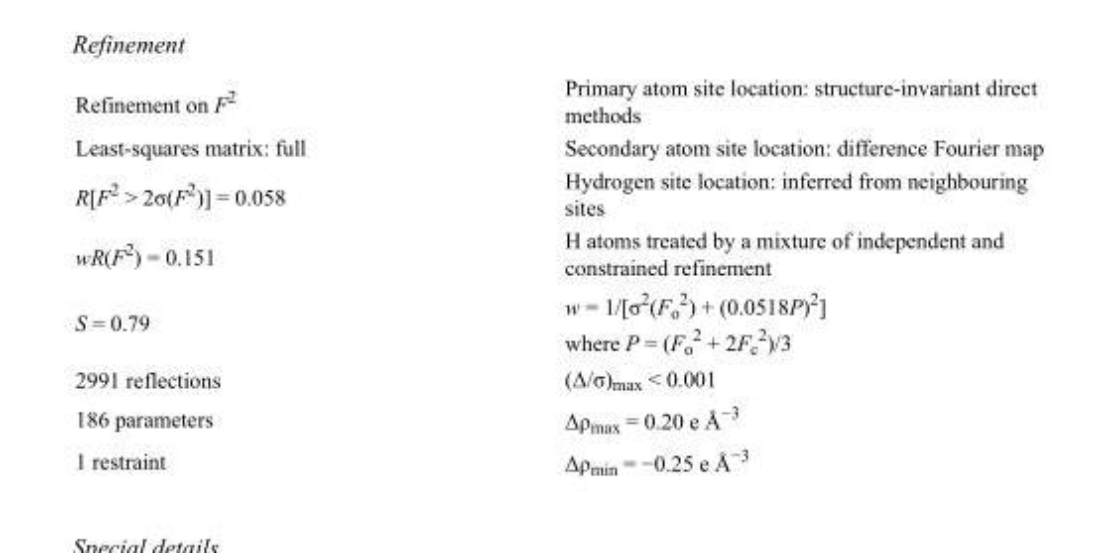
<table><tbody><tr><td>Refinement on F<sup>2</sup></td><td>Primary atom site location: structure-invariant direct methods</td></tr><tr><td>Least-squares matrix: full</td><td>Secondary atom site location: difference Fourier map</td></tr><tr><td>R[F<sup>2</sup> &gt; 2σ(F<sup>2</sup>)] = 0.058</td><td>Hydrogen site location: inferred from neighbouring sites</td></tr><tr><td>wR(F<sup>2</sup>) = 0.151</td><td>H atoms treated by a mixture of independent and constrained refinement</td></tr><tr><td>S = 0.79</td><td>w = 1/[σ<sup>2</sup>(F<sub>o</sub> <sup>2</sup>) + (0.0518P)<sup>2</sup>] where P = (F<sub>o</sub> <sup>2</sup> + 2F<sub>c</sub> <sup>2</sup>)/3</td></tr><tr><td>2991 reflections</td><td>(Δ/σ)<sub>max</sub> &lt; 0.001</td></tr><tr><td>186 parameters</td><td>Δρ<sub>max</sub> = 0.20 e Å<sup>−3</sup></td></tr><tr><td>1 restraint</td><td>Δρ<sub>min</sub> = −0.25 e Å<sup>−3</sup></td></tr></tbody></table>